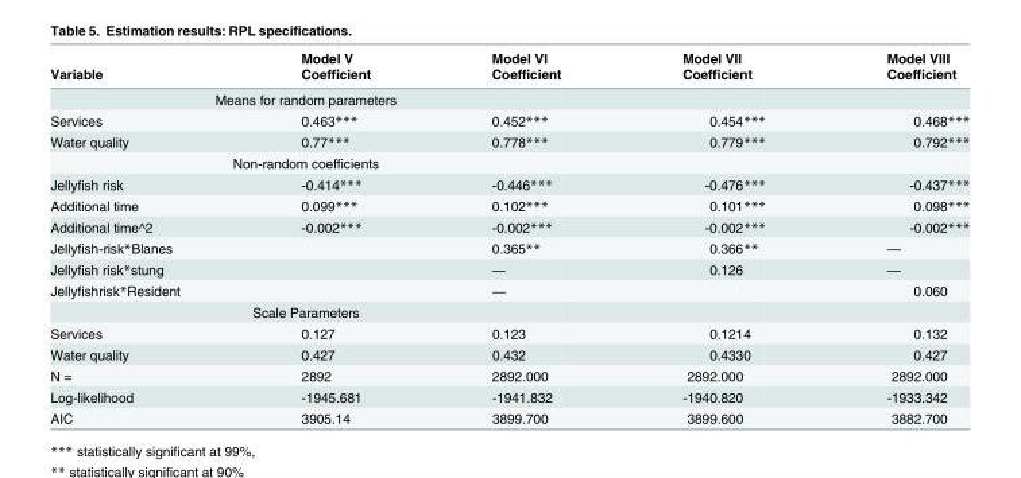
<table><thead><tr><td rowspan="2">Variable</td><td rowspan="2">Model V Coefficient</td><td rowspan="2">Model VI Coefficient</td><td rowspan="2">Model VII Coefficient</td><td rowspan="2">Model VIII Coefficient</td></tr><tr></tr></thead><tbody><tr><td colspan="5">Means for random parameters</td></tr><tr><td>Services</td><td>0.463***</td><td>0.452***</td><td>0.454***</td><td>0.468***</td></tr><tr><td>Water quality</td><td>0.77***</td><td>0.778***</td><td>0.779***</td><td>0.792***</td></tr><tr><td colspan="5">Non-random coefficients</td></tr><tr><td>Jellyfish risk</td><td>-0.414***</td><td>-0.446***</td><td>-0.476***</td><td>-0.437***</td></tr><tr><td>Additional time</td><td>0.099***</td><td>0.102***</td><td>0.101***</td><td>0.098***</td></tr><tr><td>Additional time^2</td><td>-0.002***</td><td>-0.002***</td><td>-0.002***</td><td>-0.002***</td></tr><tr><td>Jellyfish-risk*Blanes</td><td></td><td>0.365**</td><td>0.366**</td><td>—</td></tr><tr><td>Jellyfish risk*stung</td><td></td><td>—</td><td>0.126</td><td>—</td></tr><tr><td>Jellyfishrisk*Resident</td><td></td><td>—</td><td></td><td>0.060</td></tr><tr><td colspan="5">Scale Parameters</td></tr><tr><td>Services</td><td>0.127</td><td>0.123</td><td>0.1214</td><td>0.132</td></tr><tr><td>Water quality</td><td>0.427</td><td>0.432</td><td>0.4330</td><td>0.427</td></tr><tr><td>N =</td><td>2892</td><td>2892.000</td><td>2892.000</td><td>2892.000</td></tr><tr><td>Log-likelihood</td><td>-1945.681</td><td>-1941.832</td><td>-1940.820</td><td>-1933.342</td></tr><tr><td>AIC</td><td>3905.14</td><td>3899.700</td><td>3899.600</td><td>3882.700</td></tr></tbody></table>